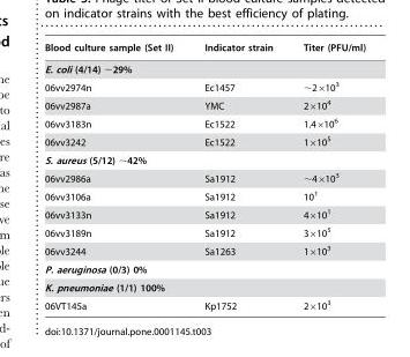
<table><thead><tr><td>Blood culture sample (Set II)</td><td>Indicator strain</td><td>Titer (PFU/ml)</td></tr></thead><tbody><tr><td colspan="3">E. coli (4/14) ∼29%</td></tr><tr><td>06vv2974n</td><td>Ec1457</td><td>∼2×10<sup>3</sup></td></tr><tr><td>06vv2987a</td><td>YMC</td><td>2×10<sup>4</sup></td></tr><tr><td>06vv3183n</td><td>Ec1522</td><td>1.4×10<sup>6</sup></td></tr><tr><td>06vv3242</td><td>Ec1522</td><td>1×10<sup>5</sup></td></tr><tr><td colspan="3">S. aureus (5/12) ∼42%</td></tr><tr><td>06vv2986a</td><td>Sa1912</td><td>∼4×10<sup>3</sup></td></tr><tr><td>06vv3106a</td><td>Sa1912</td><td>10<sup>1</sup></td></tr><tr><td>06vv3133n</td><td>Sa1912</td><td>4×10<sup>1</sup></td></tr><tr><td>06vv3189n</td><td>Sa1912</td><td>3×10<sup>5</sup></td></tr><tr><td>06vv3244</td><td>Sa1263</td><td>1×10<sup>3</sup></td></tr><tr><td colspan="3">P. aeruginosa (0/3) 0%</td></tr><tr><td colspan="3">K. pneumoniae (1/1) 100%</td></tr><tr><td>06VT145a</td><td>Kp1752</td><td>2×10<sup>3</sup></td></tr></tbody></table>